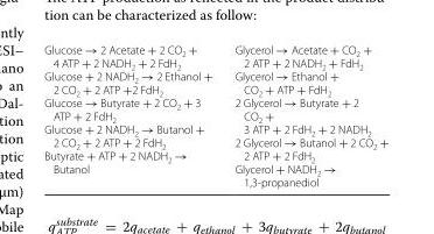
<table><tbody><tr><td>Glucose → 2 Acetate + 2 CO<sub>2</sub> + 4 ATP + 2 NADH<sub>2</sub> + 2 FdH<sub>2</sub> Glucose + 2 NADH<sub>2</sub> → 2 Ethanol + 2 CO<sub>2</sub> + 2 ATP +2 FdH<sub>2</sub> Glucose → Butyrate + 2 CO<sub>2</sub> + 3 ATP + 2 FdH<sub>2</sub> Glucose + 2 NADH<sub>2</sub> → Butanol + 2 CO<sub>2</sub> + 2 ATP + 2 FdH<sub>2</sub> Butyrate + ATP + 2 NADH<sub>2</sub> → Butanol</td><td>Glycerol → Acetate + CO<sub>2</sub> + 2 ATP + 2 NADH<sub>2</sub> + FdH<sub>2</sub> Glycerol → Ethanol + CO<sub>2</sub> + ATP + FdH<sub>2</sub> 2 Glycerol → Butyrate + 2 CO<sub>2</sub> + 3 ATP + 2 FdH<sub>2</sub> + 2 NADH<sub>2</sub> 2 Glycerol → Butanol + 2 CO<sub>2</sub> + 2 ATP + 2 FdH<sub>2</sub> Glycerol + NADH<sub>2</sub> → 1,3‑propanediol</td></tr></tbody></table>